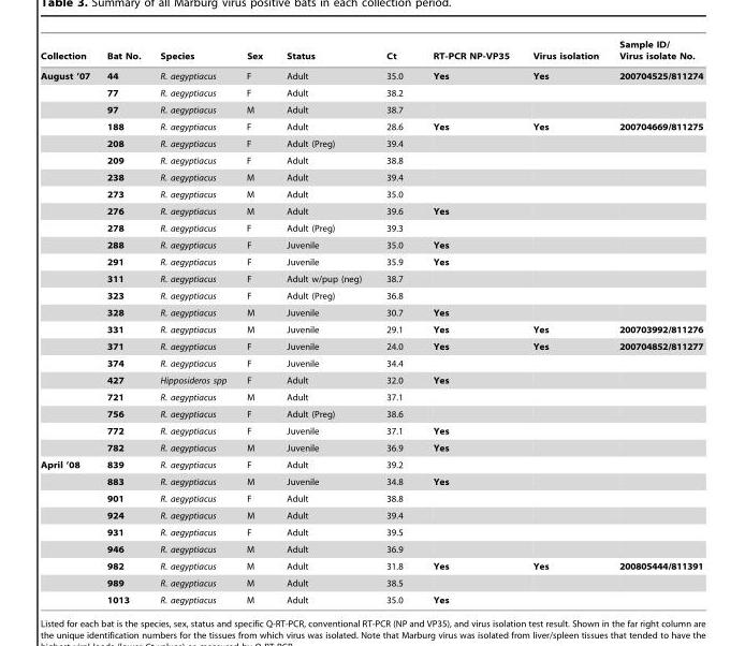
<table><thead><tr><td>Collection</td><td>Bat No.</td><td>Species</td><td>Sex</td><td>Status</td><td>Ct</td><td>RT-PCR NP-VP35</td><td>Virus isolation</td><td>Sample ID/ Virus isolate No.</td></tr></thead><tbody><tr><td rowspan="23">August ’07</td><td>44</td><td>R. aegyptiacus</td><td>F</td><td>Adult</td><td>35.0</td><td>Yes</td><td>Yes</td><td>200704525/811274</td></tr><tr><td>77</td><td>R. aegyptiacus</td><td>F</td><td>Adult</td><td>38.2</td><td></td><td></td><td></td></tr><tr><td>97</td><td>R. aegyptiacus</td><td>M</td><td>Adult</td><td>38.7</td><td></td><td></td><td></td></tr><tr><td>188</td><td>R. aegyptiacus</td><td>F</td><td>Adult</td><td>28.6</td><td>Yes</td><td>Yes</td><td>200704669/811275</td></tr><tr><td>208</td><td>R. aegyptiacus</td><td>F</td><td>Adult (Preg)</td><td>39.4</td><td></td><td></td><td></td></tr><tr><td>209</td><td>R. aegyptiacus</td><td>F</td><td>Adult</td><td>38.8</td><td></td><td></td><td></td></tr><tr><td>238</td><td>R. aegyptiacus</td><td>M</td><td>Adult</td><td>39.4</td><td></td><td></td><td></td></tr><tr><td>273</td><td>R. aegyptiacus</td><td>M</td><td>Adult</td><td>35.0</td><td></td><td></td><td></td></tr><tr><td>276</td><td>R. aegyptiacus</td><td>M</td><td>Adult</td><td>39.6</td><td>Yes</td><td></td><td></td></tr><tr><td>278</td><td>R. aegyptiacus</td><td>F</td><td>Adult (Preg)</td><td>39.3</td><td></td><td></td><td></td></tr><tr><td>288</td><td>R. aegyptiacus</td><td>F</td><td>Juvenile</td><td>35.0</td><td>Yes</td><td></td><td></td></tr><tr><td>291</td><td>R. aegyptiacus</td><td>F</td><td>Juvenile</td><td>35.9</td><td>Yes</td><td></td><td></td></tr><tr><td>311</td><td>R. aegyptiacus</td><td>F</td><td>Adult w/pup (neg)</td><td>38.7</td><td></td><td></td><td></td></tr><tr><td>323</td><td>R. aegyptiacus</td><td>F</td><td>Adult (Preg)</td><td>36.8</td><td></td><td></td><td></td></tr><tr><td>328</td><td>R. aegyptiacus</td><td>M</td><td>Juvenile</td><td>30.7</td><td>Yes</td><td></td><td></td></tr><tr><td>331</td><td>R. aegyptiacus</td><td>M</td><td>Juvenile</td><td>29.1</td><td>Yes</td><td>Yes</td><td>200703992/811276</td></tr><tr><td>371</td><td>R. aegyptiacus</td><td>F</td><td>Juvenile</td><td>24.0</td><td>Yes</td><td>Yes</td><td>200704852/811277</td></tr><tr><td>374</td><td>R. aegyptiacus</td><td>F</td><td>Juvenile</td><td>34.4</td><td></td><td></td><td></td></tr><tr><td>427</td><td>Hipposideros spp</td><td>F</td><td>Adult</td><td>32.0</td><td>Yes</td><td></td><td></td></tr><tr><td>721</td><td>R. aegyptiacus</td><td>M</td><td>Adult</td><td>37.1</td><td></td><td></td><td></td></tr><tr><td>756</td><td>R. aegyptiacus</td><td>F</td><td>Adult (Preg)</td><td>38.6</td><td></td><td></td><td></td></tr><tr><td>772</td><td>R. aegyptiacus</td><td>F</td><td>Juvenile</td><td>37.1</td><td>Yes</td><td></td><td></td></tr><tr><td>782</td><td>R. aegyptiacus</td><td>M</td><td>Juvenile</td><td>36.9</td><td>Yes</td><td></td><td></td></tr><tr><td rowspan="9">April ’08</td><td>839</td><td>R. aegyptiacus</td><td>F</td><td>Adult</td><td>39.2</td><td></td><td></td><td></td></tr><tr><td>883</td><td>R. aegyptiacus</td><td>M</td><td>Juvenile</td><td>34.8</td><td>Yes</td><td></td><td></td></tr><tr><td>901</td><td>R. aegyptiacus</td><td>F</td><td>Adult</td><td>38.8</td><td></td><td></td><td></td></tr><tr><td>924</td><td>R. aegyptiacus</td><td>M</td><td>Adult</td><td>39.4</td><td></td><td></td><td></td></tr><tr><td>931</td><td>R. aegyptiacus</td><td>F</td><td>Adult</td><td>39.5</td><td></td><td></td><td></td></tr><tr><td>946</td><td>R. aegyptiacus</td><td>M</td><td>Adult</td><td>36.9</td><td></td><td></td><td></td></tr><tr><td>982</td><td>R. aegyptiacus</td><td>M</td><td>Adult</td><td>31.8</td><td>Yes</td><td>Yes</td><td>200805444/811391</td></tr><tr><td>989</td><td>R. aegyptiacus</td><td>M</td><td>Adult</td><td>38.5</td><td></td><td></td><td></td></tr><tr><td>1013</td><td>R. aegyptiacus</td><td>M</td><td>Adult</td><td>35.0</td><td>Yes</td><td></td><td></td></tr></tbody></table>